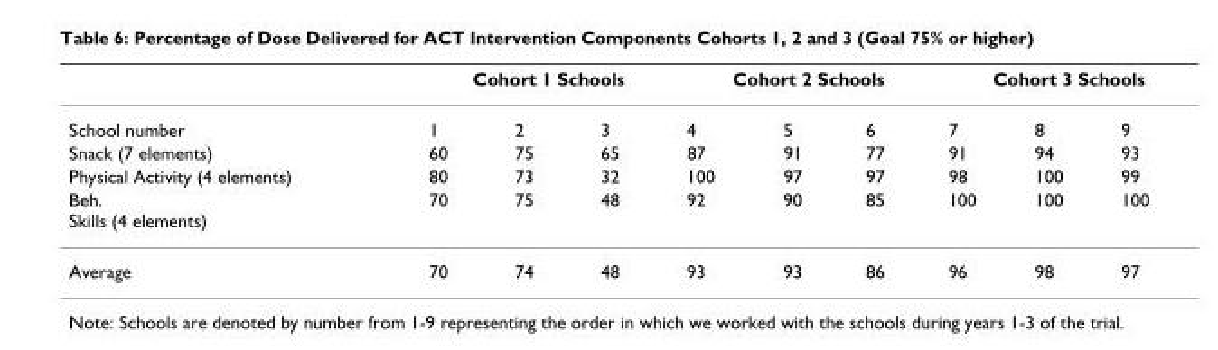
<table><thead><tr><td rowspan="2">School number</td><td colspan="3">Cohort 1 Schools</td><td colspan="3">Cohort 2 Schools</td><td colspan="3">Cohort 3 Schools</td></tr><tr><td>1</td><td>2</td><td>3</td><td>4</td><td>5</td><td>6</td><td>7</td><td>8</td><td>9</td></tr></thead><tbody><tr><td>Snack (7 elements)</td><td>60</td><td>75</td><td>65</td><td>87</td><td>91</td><td>77</td><td>91</td><td>94</td><td>93</td></tr><tr><td>Physical Activity (4 elements)</td><td>80</td><td>73</td><td>32</td><td>100</td><td>97</td><td>97</td><td>98</td><td>100</td><td>99</td></tr><tr><td>Beh. Skills (4 elements)</td><td>70</td><td>75</td><td>48</td><td>92</td><td>90</td><td>85</td><td>100</td><td>100</td><td>100</td></tr><tr><td>Average</td><td>70</td><td>74</td><td>48</td><td>93</td><td>93</td><td>86</td><td>96</td><td>98</td><td>97</td></tr></tbody></table>